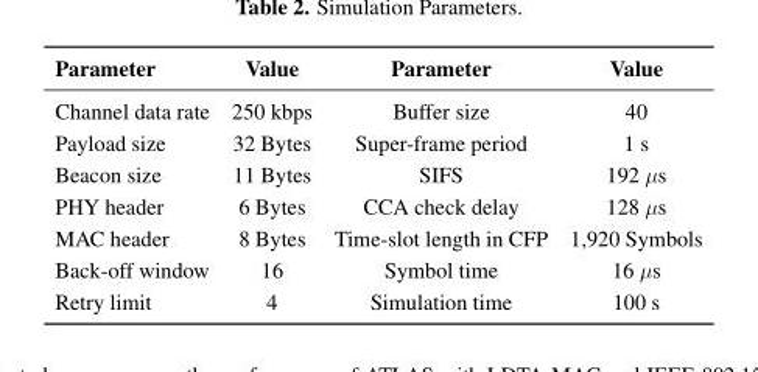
<table><thead><tr><td>Parameter</td><td>Value</td><td>Parameter</td><td>Value</td></tr></thead><tbody><tr><td>Channel data rate</td><td>250 kbps</td><td>Buffer size</td><td>40</td></tr><tr><td>Payload size</td><td>32 Bytes</td><td>Super-frame period</td><td>1 s</td></tr><tr><td>Beacon size</td><td>11 Bytes</td><td>SIFS</td><td>192 µs</td></tr><tr><td>PHY header</td><td>6 Bytes</td><td>CCA check delay</td><td>128 µs</td></tr><tr><td>MAC header</td><td>8 Bytes</td><td>Time-slot length in CFP</td><td>1,920 Symbols</td></tr><tr><td>Back-off window</td><td>16</td><td>Symbol time</td><td>16 µs</td></tr><tr><td>Retry limit</td><td>4</td><td>Simulation time</td><td>100 s</td></tr></tbody></table>